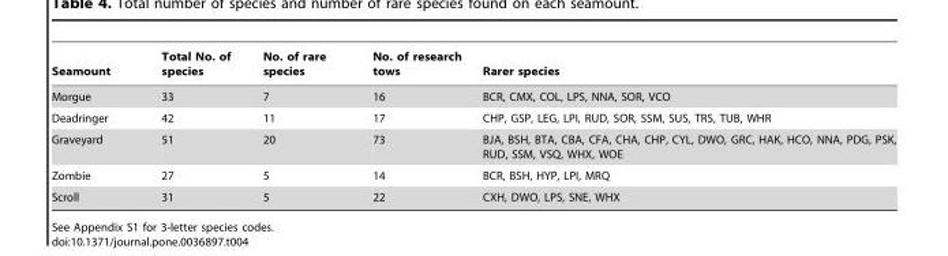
<table><thead><tr><td>Seamount</td><td>Total No. of species</td><td>No. of rare species</td><td>No. of research tows</td><td>Rarer species</td></tr></thead><tbody><tr><td>Morgue</td><td>33</td><td>7</td><td>16</td><td>BCR, CMX, COL, LPS, NNA, SOR, VCO</td></tr><tr><td>Deadringer</td><td>42</td><td>11</td><td>17</td><td>CHP, GSP, LEG, LPI, RUD, SOR, SSM, SUS, TRS, TUB, WHR</td></tr><tr><td>Graveyard</td><td>51</td><td>20</td><td>73</td><td>BJA, BSH, BTA, CBA, CFA, CHA, CHP, CYL, DWO, GRC, HAK, HCO, NNA, PDG, PSK, RUD, SSM, VSQ, WHX, WOE</td></tr><tr><td>Zombie</td><td>27</td><td>5</td><td>14</td><td>BCR, BSH, HYP, LPI, MRQ</td></tr><tr><td>Scroll</td><td>31</td><td>5</td><td>22</td><td>CXH, DWO, LPS, SNE, WHX</td></tr></tbody></table>